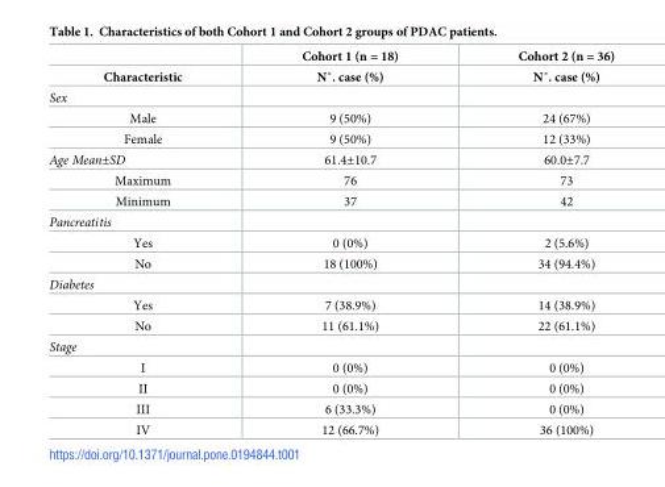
<table><thead><tr><td rowspan="2">Characteristic</td><td rowspan="2">Cohort 1 (n = 18) N˚. case (%)</td><td rowspan="2">Cohort 2 (n = 36) N˚. case (%)</td></tr><tr></tr></thead><tbody><tr><td colspan="3">Sex</td></tr><tr><td>Male</td><td>9 (50%)</td><td>24 (67%)</td></tr><tr><td>Female</td><td>9 (50%)</td><td>12 (33%)</td></tr><tr><td>Age Mean±SD</td><td>61.4±10.7</td><td>60.0±7.7</td></tr><tr><td>Maximum</td><td>76</td><td>73</td></tr><tr><td>Minimum</td><td>37</td><td>42</td></tr><tr><td colspan="3">Pancreatitis</td></tr><tr><td>Yes</td><td>0 (0%)</td><td>2 (5.6%)</td></tr><tr><td>No</td><td>18 (100%)</td><td>34 (94.4%)</td></tr><tr><td colspan="3">Diabetes</td></tr><tr><td>Yes</td><td>7 (38.9%)</td><td>14 (38.9%)</td></tr><tr><td>No</td><td>11 (61.1%)</td><td>22 (61.1%)</td></tr><tr><td colspan="3">Stage</td></tr><tr><td>I</td><td>0 (0%)</td><td>0 (0%)</td></tr><tr><td>II</td><td>0 (0%)</td><td>0 (0%)</td></tr><tr><td>III</td><td>6 (33.3%)</td><td>0 (0%)</td></tr><tr><td>IV</td><td>12 (66.7%)</td><td>36 (100%)</td></tr></tbody></table>